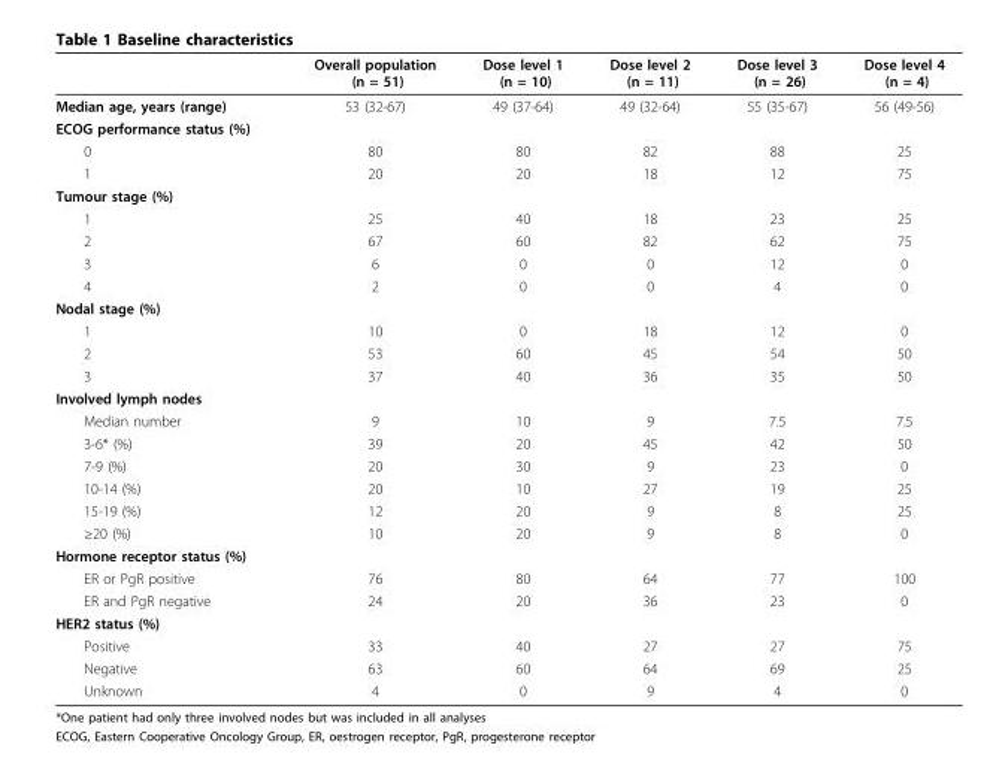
<table><thead><tr><td></td><td>Overall population (n = 51)</td><td>Dose level 1 (n = 10)</td><td>Dose level 2 (n = 11)</td><td>Dose level 3 (n = 26)</td><td>Dose level 4 (n = 4)</td></tr></thead><tbody><tr><td>Median age, years (range)</td><td>53 (32-67)</td><td>49 (37-64)</td><td>49 (32-64)</td><td>55 (35-67)</td><td>56 (49-56)</td></tr><tr><td colspan="6">ECOG performance status (%)</td></tr><tr><td>0</td><td>80</td><td>80</td><td>82</td><td>88</td><td>25</td></tr><tr><td>1</td><td>20</td><td>20</td><td>18</td><td>12</td><td>75</td></tr><tr><td colspan="6">Tumour stage (%)</td></tr><tr><td>1</td><td>25</td><td>40</td><td>18</td><td>23</td><td>25</td></tr><tr><td>2</td><td>67</td><td>60</td><td>82</td><td>62</td><td>75</td></tr><tr><td>3</td><td>6</td><td>0</td><td>0</td><td>12</td><td>0</td></tr><tr><td>4</td><td>2</td><td>0</td><td>0</td><td>4</td><td>0</td></tr><tr><td colspan="6">Nodal stage (%)</td></tr><tr><td>1</td><td>10</td><td>0</td><td>18</td><td>12</td><td>0</td></tr><tr><td>2</td><td>53</td><td>60</td><td>45</td><td>54</td><td>50</td></tr><tr><td>3</td><td>37</td><td>40</td><td>36</td><td>35</td><td>50</td></tr><tr><td colspan="6">Involved lymph nodes</td></tr><tr><td>Median number</td><td>9</td><td>10</td><td>9</td><td>7.5</td><td>7.5</td></tr><tr><td>3-6* (%)</td><td>39</td><td>20</td><td>45</td><td>42</td><td>50</td></tr><tr><td>7-9 (%)</td><td>20</td><td>30</td><td>9</td><td>23</td><td>0</td></tr><tr><td>10-14 (%)</td><td>20</td><td>10</td><td>27</td><td>19</td><td>25</td></tr><tr><td>15-19 (%)</td><td>12</td><td>20</td><td>9</td><td>8</td><td>25</td></tr><tr><td>≥20 (%)</td><td>10</td><td>20</td><td>9</td><td>8</td><td>0</td></tr><tr><td colspan="6">Hormone receptor status (%)</td></tr><tr><td>ER or PgR positive</td><td>76</td><td>80</td><td>64</td><td>77</td><td>100</td></tr><tr><td>ER and PgR negative</td><td>24</td><td>20</td><td>36</td><td>23</td><td>0</td></tr><tr><td colspan="6">HER2 status (%)</td></tr><tr><td>Positive</td><td>33</td><td>40</td><td>27</td><td>27</td><td>75</td></tr><tr><td>Negative</td><td>63</td><td>60</td><td>64</td><td>69</td><td>25</td></tr><tr><td>Unknown</td><td>4</td><td>0</td><td>9</td><td>4</td><td>0</td></tr></tbody></table>